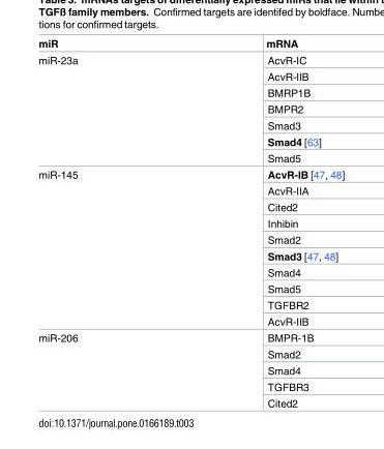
<table><thead><tr><td>miR</td><td>mRNA</td></tr></thead><tbody><tr><td rowspan="7">miR-23a</td><td>AcvR-IC</td></tr><tr><td>AcvR-IIB</td></tr><tr><td>BMRP1B</td></tr><tr><td>BMPR2</td></tr><tr><td>Smad3</td></tr><tr><td>Smad4 [63]</td></tr><tr><td>Smad5</td></tr><tr><td rowspan="10">miR-145</td><td>AcvR-IB [47, 48]</td></tr><tr><td>AcvR-IIA</td></tr><tr><td>Cited2</td></tr><tr><td>Inhibin</td></tr><tr><td>Smad2</td></tr><tr><td>Smad3 [47, 48]</td></tr><tr><td>Smad4</td></tr><tr><td>Smad5</td></tr><tr><td>TGFBR2</td></tr><tr><td>AcvR-IIB</td></tr><tr><td rowspan="5">miR-206</td><td>BMPR-1B</td></tr><tr><td>Smad2</td></tr><tr><td>Smad4</td></tr><tr><td>TGFBR3</td></tr><tr><td>Cited2</td></tr></tbody></table>